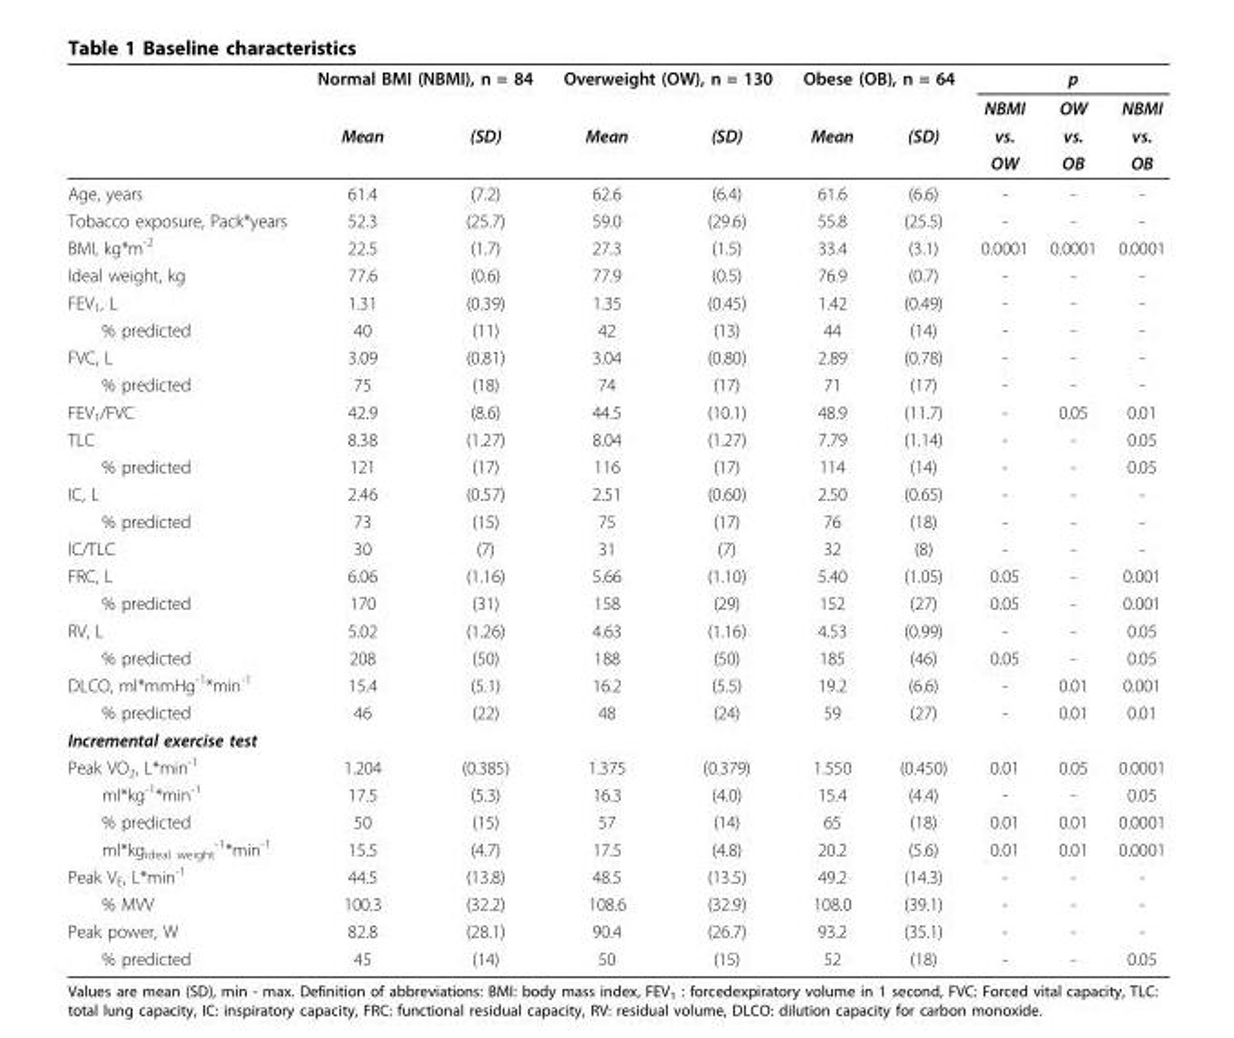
<table><thead><tr><td rowspan="4"></td><td colspan="2">Normal BMI (NBMI), n = 84</td><td colspan="2">Overweight (OW), n = 130</td><td colspan="2">Obese (OB), n = 64</td><td colspan="3">p</td></tr><tr><td rowspan="3">Mean</td><td rowspan="3">(SD)</td><td rowspan="3">Mean</td><td rowspan="3">(SD)</td><td rowspan="3">Mean</td><td rowspan="3">(SD)</td><td rowspan="3">NBMI vs. OW</td><td rowspan="3">OW vs. OB</td><td rowspan="3">NBMI vs. OB</td></tr><tr></tr><tr></tr></thead><tbody><tr><td>Age, years</td><td>61.4</td><td>(7.2)</td><td>62.6</td><td>(6.4)</td><td>61.6</td><td>(6.6)</td><td>-</td><td>-</td><td>-</td></tr><tr><td>Tobacco exposure, Pack*years</td><td>52.3</td><td>(25.7)</td><td>59.0</td><td>(29.6)</td><td>55.8</td><td>(25.5)</td><td>-</td><td>-</td><td>-</td></tr><tr><td>BMI, kg*m<sup>-2</sup></td><td>22.5</td><td>(1.7)</td><td>27.3</td><td>(1.5)</td><td>33.4</td><td>(3.1)</td><td>0.0001</td><td>0.0001</td><td>0.0001</td></tr><tr><td>Ideal weight, kg</td><td>77.6</td><td>(0.6)</td><td>77.9</td><td>(0.5)</td><td>76.9</td><td>(0.7)</td><td>-</td><td>-</td><td>-</td></tr><tr><td>FEV<sub>1</sub>, L</td><td>1.31</td><td>(0.39)</td><td>1.35</td><td>(0.45)</td><td>1.42</td><td>(0.49)</td><td>-</td><td>-</td><td>-</td></tr><tr><td>% predicted</td><td>40</td><td>(11)</td><td>42</td><td>(13)</td><td>44</td><td>(14)</td><td>-</td><td>-</td><td>-</td></tr><tr><td>FVC, L</td><td>3.09</td><td>(0.81)</td><td>3.04</td><td>(0.80)</td><td>2.89</td><td>(0.78)</td><td>-</td><td>-</td><td>-</td></tr><tr><td>% predicted</td><td>75</td><td>(18)</td><td>74</td><td>(17)</td><td>71</td><td>(17)</td><td>-</td><td>-</td><td>-</td></tr><tr><td>FEV<sub>1</sub>/FVC</td><td>42.9</td><td>(8.6)</td><td>44.5</td><td>(10.1)</td><td>48.9</td><td>(11.7)</td><td>-</td><td>0.05</td><td>0.01</td></tr><tr><td>TLC</td><td>8.38</td><td>(1.27)</td><td>8.04</td><td>(1.27)</td><td>7.79</td><td>(1.14)</td><td>-</td><td>-</td><td>0.05</td></tr><tr><td>% predicted</td><td>121</td><td>(17)</td><td>116</td><td>(17)</td><td>114</td><td>(14)</td><td>-</td><td>-</td><td>0.05</td></tr><tr><td>IC, L</td><td>2.46</td><td>(0.57)</td><td>2.51</td><td>(0.60)</td><td>2.50</td><td>(0.65)</td><td>-</td><td>-</td><td>-</td></tr><tr><td>% predicted</td><td>73</td><td>(15)</td><td>75</td><td>(17)</td><td>76</td><td>(18)</td><td>-</td><td>-</td><td>-</td></tr><tr><td>IC/TLC</td><td>30</td><td>(7)</td><td>31</td><td>(7)</td><td>32</td><td>(8)</td><td>-</td><td>-</td><td>-</td></tr><tr><td>FRC, L</td><td>6.06</td><td>(1.16)</td><td>5.66</td><td>(1.10)</td><td>5.40</td><td>(1.05)</td><td>0.05</td><td>-</td><td>0.001</td></tr><tr><td>% predicted</td><td>170</td><td>(31)</td><td>158</td><td>(29)</td><td>152</td><td>(27)</td><td>0.05</td><td>-</td><td>0.001</td></tr><tr><td>RV, L</td><td>5.02</td><td>(1.26)</td><td>4.63</td><td>(1.16)</td><td>4.53</td><td>(0.99)</td><td>-</td><td>-</td><td>0.05</td></tr><tr><td>% predicted</td><td>208</td><td>(50)</td><td>188</td><td>(50)</td><td>185</td><td>(46)</td><td>0.05</td><td>-</td><td>0.05</td></tr><tr><td>DLCO, ml*mmHg<sup>-1</sup>*min<sup>-1</sup></td><td>15.4</td><td>(5.1)</td><td>16.2</td><td>(5.5)</td><td>19.2</td><td>(6.6)</td><td>-</td><td>0.01</td><td>0.001</td></tr><tr><td>% predicted</td><td>46</td><td>(22)</td><td>48</td><td>(24)</td><td>59</td><td>(27)</td><td>-</td><td>0.01</td><td>0.01</td></tr><tr><td colspan="10">Incremental exercise test</td></tr><tr><td>Peak VO<sub>2</sub>, L*min<sup>-1</sup></td><td>1.204</td><td>(0.385)</td><td>1.375</td><td>(0.379)</td><td>1.550</td><td>(0.450)</td><td>0.01</td><td>0.05</td><td>0.0001</td></tr><tr><td>ml*kg<sup>-1</sup>*min<sup>-1</sup></td><td>17.5</td><td>(5.3)</td><td>16.3</td><td>(4.0)</td><td>15.4</td><td>(4.4)</td><td>-</td><td>-</td><td>0.05</td></tr><tr><td>% predicted</td><td>50</td><td>(15)</td><td>57</td><td>(14)</td><td>65</td><td>(18)</td><td>0.01</td><td>0.01</td><td>0.0001</td></tr><tr><td>ml*kg<sub>ideal weight</sub> <sup>-1</sup>*min<sup>-1</sup></td><td>15.5</td><td>(4.7)</td><td>17.5</td><td>(4.8)</td><td>20.2</td><td>(5.6)</td><td>0.01</td><td>0.01</td><td>0.0001</td></tr><tr><td>Peak V<sub>E</sub>, L*min<sup>-1</sup></td><td>44.5</td><td>(13.8)</td><td>48.5</td><td>(13.5)</td><td>49.2</td><td>(14.3)</td><td>-</td><td>-</td><td>-</td></tr><tr><td>% MVV</td><td>100.3</td><td>(32.2)</td><td>108.6</td><td>(32.9)</td><td>108.0</td><td>(39.1)</td><td>-</td><td>-</td><td>-</td></tr><tr><td>Peak power, W</td><td>82.8</td><td>(28.1)</td><td>90.4</td><td>(26.7)</td><td>93.2</td><td>(35.1)</td><td>-</td><td>-</td><td>-</td></tr><tr><td>% predicted</td><td>45</td><td>(14)</td><td>50</td><td>(15)</td><td>52</td><td>(18)</td><td>-</td><td>-</td><td>0.05</td></tr></tbody></table>